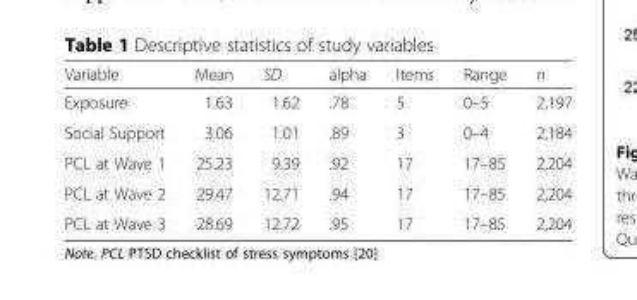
<table><thead><tr><td>Variable</td><td>Mean</td><td>SD</td><td>alpha</td><td>Items</td><td>Range</td><td>n</td></tr></thead><tbody><tr><td>Exposure</td><td>1.63</td><td>1.62</td><td>.78</td><td>5</td><td>0–5</td><td>2,197</td></tr><tr><td>Social Support</td><td>3.06</td><td>1.01</td><td>.89</td><td>3</td><td>0–4</td><td>2,184</td></tr><tr><td>PCL at Wave 1</td><td>25.23</td><td>9.39</td><td>.92</td><td>17</td><td>17–85</td><td>2,204</td></tr><tr><td>PCL at Wave 2</td><td>29.47</td><td>12.71</td><td>.94</td><td>17</td><td>17–85</td><td>2,204</td></tr><tr><td>PCL at Wave 3</td><td>28.69</td><td>12.72</td><td>.95</td><td>17</td><td>17–85</td><td>2,204</td></tr></tbody></table>